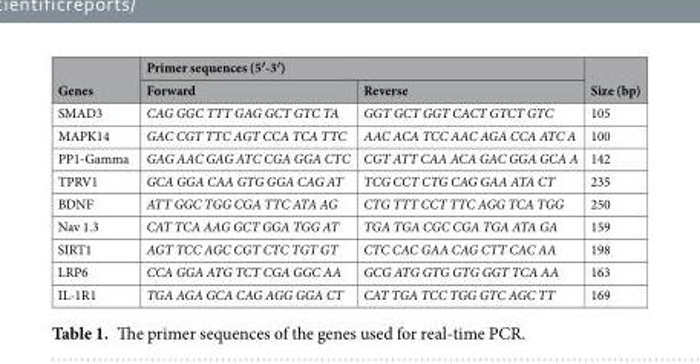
<table><thead><tr><td rowspan="2">Genes</td><td colspan="2">Primer sequences (5′-3′)</td><td rowspan="2">Size (bp)</td></tr><tr><td>Forward</td><td>Reverse</td></tr></thead><tbody><tr><td>SMAD3</td><td>CAG GGC TTT GAG GCT GTC TA</td><td>GGT GCT GGT CACT GTCT GTC</td><td>105</td></tr><tr><td>MAPK14</td><td>GAC CGT TTC AGT CCA TCA TTC</td><td>AAC ACA TCC AAC AGA CCA ATC A</td><td>100</td></tr><tr><td>PP1-Gamma</td><td>GAG AAC GAG ATC CGA GGA CTC</td><td>CGT ATT CAA ACA GAC GGA GCA A</td><td>142</td></tr><tr><td>TPRV1</td><td>GCA GGA CAA GTG GGA CAG AT</td><td>TCG CCT CTG CAG GAA ATA CT</td><td>235</td></tr><tr><td>BDNF</td><td>ATT GGC TGG CGA TTC ATA AG</td><td>CTG TTT CCT TTC AGG TCA TGG</td><td>250</td></tr><tr><td>Nav 1.3</td><td>CAT TCA AAG GCT GGA TGG AT</td><td>TGA TGA CGC CGA TGA ATA GA</td><td>159</td></tr><tr><td>SIRT1</td><td>AGT TCC AGC CGT CTC TGT GT</td><td>CTC CAC GAA CAG CTT CAC AA</td><td>198</td></tr><tr><td>LRP6</td><td>CCA GGA ATG TCT CGA GGC AA</td><td>GCG ATG GTG GTG GGT TCA AA</td><td>163</td></tr><tr><td>IL-1R1</td><td>TGA AGA GCA CAG AGG GGA CT</td><td>CAT TGA TCC TGG GTC AGC TT</td><td>169</td></tr></tbody></table>